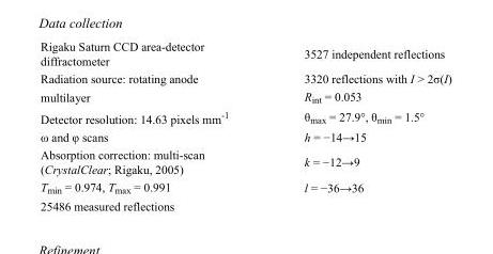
<table><tbody><tr><td>Rigaku Saturn CCD area-detector diffractometer</td><td>3527 independent reflections</td></tr><tr><td>Radiation source: rotating anode</td><td>3320 reflections with I &gt; 2σ(I)</td></tr><tr><td>multilayer</td><td>R<sub>int</sub> = 0.053</td></tr><tr><td>Detector resolution: 14.63 pixels mm<sup>-1</sup></td><td>θ<sub>max</sub> = 27.9°, θ<sub>min</sub> = 1.5°</td></tr><tr><td>ω and φ scans</td><td>h = −14→15</td></tr><tr><td>Absorption correction: multi-scan (CrystalClear; Rigaku, 2005)</td><td>k = −12→9</td></tr><tr><td>T<sub>min</sub> = 0.974, T<sub>max</sub> = 0.991</td><td>l = −36→36</td></tr><tr><td>25486 measured reflections</td><td></td></tr></tbody></table>